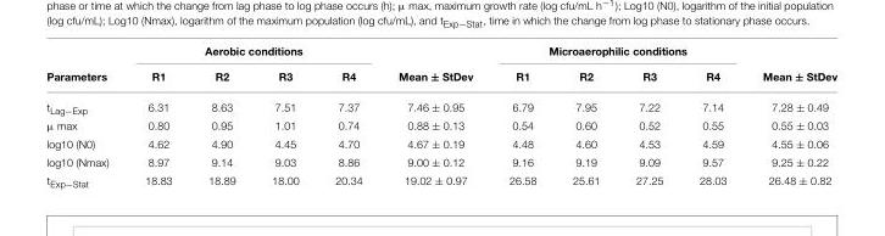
<table><thead><tr><td rowspan="2">Parameters</td><td colspan="4">Aerobic conditions</td><td rowspan="2">Mean ± StDev</td><td colspan="4">Microaerophilic conditions</td><td rowspan="2">Mean ± StDev</td></tr><tr><td>R1</td><td>R2</td><td>R3</td><td>R4</td><td>R1</td><td>R2</td><td>R3</td><td>R4</td></tr></thead><tbody><tr><td>t<sub>Lag−Exp</sub></td><td>6.31</td><td>8.63</td><td>7.51</td><td>7.37</td><td>7.46 ± 0.95</td><td>6.79</td><td>7.95</td><td>7.22</td><td>7.14</td><td>7.28 ± 0.49</td></tr><tr><td>µ max</td><td>0.80</td><td>0.95</td><td>1.01</td><td>0.74</td><td>0.88 ± 0.13</td><td>0.54</td><td>0.60</td><td>0.52</td><td>0.55</td><td>0.55 ± 0.03</td></tr><tr><td>log10 (N0)</td><td>4.62</td><td>4.90</td><td>4.45</td><td>4.70</td><td>4.67 ± 0.19</td><td>4.48</td><td>4.60</td><td>4.53</td><td>4.59</td><td>4.55 ± 0.06</td></tr><tr><td>log10 (Nmax)</td><td>8.97</td><td>9.14</td><td>9.03</td><td>8.86</td><td>9.00 ± 0.12</td><td>9.16</td><td>9.19</td><td>9.09</td><td>9.57</td><td>9.25 ± 0.22</td></tr><tr><td>t<sub>Exp−Stat</sub></td><td>18.83</td><td>18.89</td><td>18.00</td><td>20.34</td><td>19.02 ± 0.97</td><td>26.58</td><td>25.61</td><td>27.25</td><td>28.03</td><td>26.48 ± 0.82</td></tr></tbody></table>